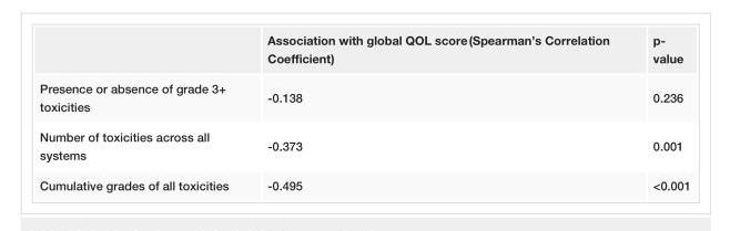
<table><thead><tr><td></td><td>Association with global QOL score (Spearman’s Correlation Coefficient)</td><td>p- value</td></tr></thead><tbody><tr><td>Presence or absence of grade 3+ toxicities</td><td>-0.138</td><td>0.236</td></tr><tr><td>Number of toxicities across all systems</td><td>-0.373</td><td>0.001</td></tr><tr><td>Cumulative grades of all toxicities</td><td>-0.495</td><td>&lt;0.001</td></tr></tbody></table>